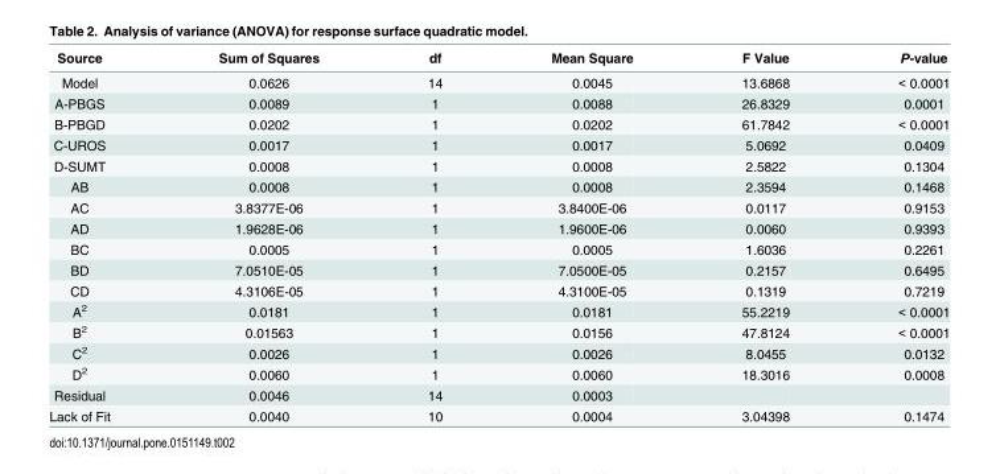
<table><thead><tr><td>Source</td><td>Sum of Squares</td><td>df</td><td>Mean Square</td><td>F Value</td><td>P-value</td></tr></thead><tbody><tr><td>Model</td><td>0.0626</td><td>14</td><td>0.0045</td><td>13.6868</td><td>&lt; 0.0001</td></tr><tr><td>A-PBGS</td><td>0.0089</td><td>1</td><td>0.0088</td><td>26.8329</td><td>0.0001</td></tr><tr><td>B-PBGD</td><td>0.0202</td><td>1</td><td>0.0202</td><td>61.7842</td><td>&lt; 0.0001</td></tr><tr><td>C-UROS</td><td>0.0017</td><td>1</td><td>0.0017</td><td>5.0692</td><td>0.0409</td></tr><tr><td>D-SUMT</td><td>0.0008</td><td>1</td><td>0.0008</td><td>2.5822</td><td>0.1304</td></tr><tr><td>AB</td><td>0.0008</td><td>1</td><td>0.0008</td><td>2.3594</td><td>0.1468</td></tr><tr><td>AC</td><td>3.8377E-06</td><td>1</td><td>3.8400E-06</td><td>0.0117</td><td>0.9153</td></tr><tr><td>AD</td><td>1.9628E-06</td><td>1</td><td>1.9600E-06</td><td>0.0060</td><td>0.9393</td></tr><tr><td>BC</td><td>0.0005</td><td>1</td><td>0.0005</td><td>1.6036</td><td>0.2261</td></tr><tr><td>BD</td><td>7.0510E-05</td><td>1</td><td>7.0500E-05</td><td>0.2157</td><td>0.6495</td></tr><tr><td>CD</td><td>4.3106E-05</td><td>1</td><td>4.3100E-05</td><td>0.1319</td><td>0.7219</td></tr><tr><td>A<sup>2</sup></td><td>0.0181</td><td>1</td><td>0.0181</td><td>55.2219</td><td>&lt; 0.0001</td></tr><tr><td>B<sup>2</sup></td><td>0.01563</td><td>1</td><td>0.0156</td><td>47.8124</td><td>&lt; 0.0001</td></tr><tr><td>C<sup>2</sup></td><td>0.0026</td><td>1</td><td>0.0026</td><td>8.0455</td><td>0.0132</td></tr><tr><td>D<sup>2</sup></td><td>0.0060</td><td>1</td><td>0.0060</td><td>18.3016</td><td>0.0008</td></tr><tr><td>Residual</td><td>0.0046</td><td>14</td><td>0.0003</td><td></td><td></td></tr><tr><td>Lack of Fit</td><td>0.0040</td><td>10</td><td>0.0004</td><td>3.04398</td><td>0.1474</td></tr></tbody></table>